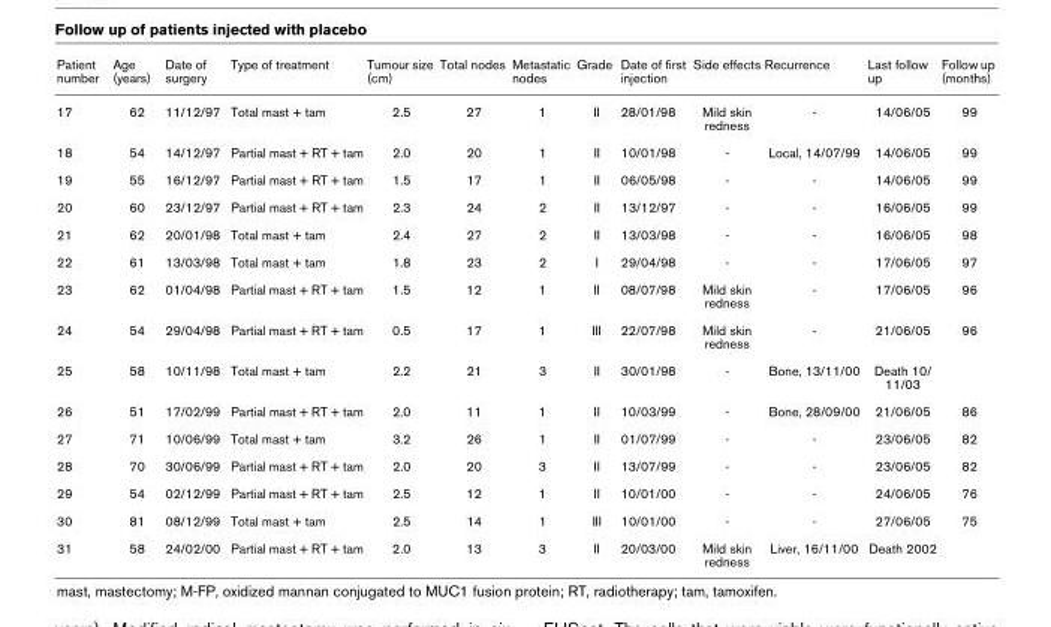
<table><thead><tr><td>Patient number</td><td>Age (years)</td><td>Date of surgery</td><td>Type of treatment</td><td>Tumour size (cm)</td><td>Total nodes</td><td>Metastatic nodes</td><td>Grade</td><td>Date of first injection</td><td>Side effects</td><td>Recurrence</td><td>Last follow up</td><td>Follow up (months)</td></tr></thead><tbody><tr><td>17</td><td>62</td><td>11/12/97</td><td>Total mast + tam</td><td>2.5</td><td>27</td><td>1</td><td>II</td><td>28/01/98</td><td>Mild skin redness</td><td>-</td><td>14/06/05</td><td>99</td></tr><tr><td>18</td><td>54</td><td>14/12/97</td><td>Partial mast + RT + tam</td><td>2.0</td><td>20</td><td>1</td><td>II</td><td>10/01/98</td><td>-</td><td>Local, 14/07/99</td><td>14/06/05</td><td>99</td></tr><tr><td>19</td><td>55</td><td>16/12/97</td><td>Partial mast + RT + tam</td><td>1.5</td><td>17</td><td>1</td><td>II</td><td>06/05/98</td><td>-</td><td>-</td><td>14/06/05</td><td>99</td></tr><tr><td>20</td><td>60</td><td>23/12/97</td><td>Partial mast + RT + tam</td><td>2.3</td><td>24</td><td>2</td><td>II</td><td>13/12/97</td><td>-</td><td>-</td><td>16/06/05</td><td>99</td></tr><tr><td>21</td><td>62</td><td>20/01/98</td><td>Total mast + tam</td><td>2.4</td><td>27</td><td>2</td><td>II</td><td>13/03/98</td><td>-</td><td>-</td><td>16/06/05</td><td>98</td></tr><tr><td>22</td><td>61</td><td>13/03/98</td><td>Total mast + tam</td><td>1.8</td><td>23</td><td>2</td><td>I</td><td>29/04/98</td><td>-</td><td>-</td><td>17/06/05</td><td>97</td></tr><tr><td>23</td><td>62</td><td>01/04/98</td><td>Partial mast + RT + tam</td><td>1.5</td><td>12</td><td>1</td><td>II</td><td>08/07/98</td><td>Mild skin redness</td><td>-</td><td>17/06/05</td><td>96</td></tr><tr><td>24</td><td>54</td><td>29/04/98</td><td>Partial mast + RT + tam</td><td>0.5</td><td>17</td><td>1</td><td>III</td><td>22/07/98</td><td>Mild skin redness</td><td>-</td><td>21/06/05</td><td>96</td></tr><tr><td>25</td><td>58</td><td>10/11/98</td><td>Total mast + tam</td><td>2.2</td><td>21</td><td>3</td><td>II</td><td>30/01/98</td><td>-</td><td>Bone, 13/11/00</td><td>Death 10/ 11/03</td><td></td></tr><tr><td>26</td><td>51</td><td>17/02/99</td><td>Partial mast + RT + tam</td><td>2.0</td><td>11</td><td>1</td><td>II</td><td>10/03/99</td><td>-</td><td>Bone, 28/09/00</td><td>21/06/05</td><td>86</td></tr><tr><td>27</td><td>71</td><td>10/06/99</td><td>Total mast + tam</td><td>3.2</td><td>26</td><td>1</td><td>II</td><td>01/07/99</td><td>-</td><td>-</td><td>23/06/05</td><td>82</td></tr><tr><td>28</td><td>70</td><td>30/06/99</td><td>Partial mast + RT + tam</td><td>2.0</td><td>20</td><td>3</td><td>II</td><td>13/07/99</td><td>-</td><td>-</td><td>23/06/05</td><td>82</td></tr><tr><td>29</td><td>54</td><td>02/12/99</td><td>Partial mast + RT + tam</td><td>2.5</td><td>12</td><td>1</td><td>II</td><td>10/01/00</td><td>-</td><td>-</td><td>24/06/05</td><td>76</td></tr><tr><td>30</td><td>81</td><td>08/12/99</td><td>Total mast + tam</td><td>2.5</td><td>14</td><td>1</td><td>III</td><td>10/01/00</td><td>-</td><td>-</td><td>27/06/05</td><td>75</td></tr><tr><td>31</td><td>58</td><td>24/02/00</td><td>Partial mast + RT + tam</td><td>2.0</td><td>13</td><td>3</td><td>II</td><td>20/03/00</td><td>Mild skin redness</td><td>Liver, 16/11/00</td><td>Death 2002</td><td></td></tr></tbody></table>